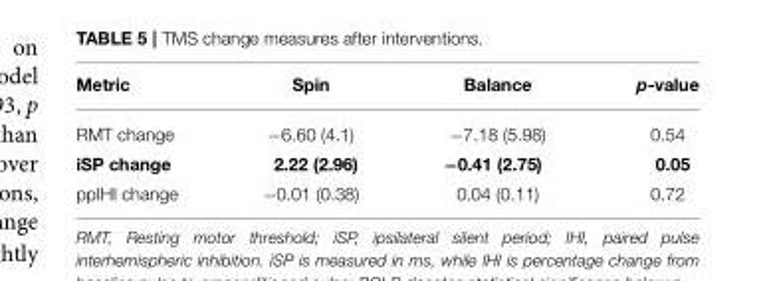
<table><thead><tr><td>Metric</td><td>Spin</td><td>Balance</td><td>p-value</td></tr></thead><tbody><tr><td>RMT change</td><td>−6.60 (4.1)</td><td>−7.18 (5.98)</td><td>0.54</td></tr><tr><td>iSP change</td><td>2.22 (2.96)</td><td>−0.41 (2.75)</td><td>0.05</td></tr><tr><td>ppIHI change</td><td>−0.01 (0.38)</td><td>0.04 (0.11)</td><td>0.72</td></tr></tbody></table>